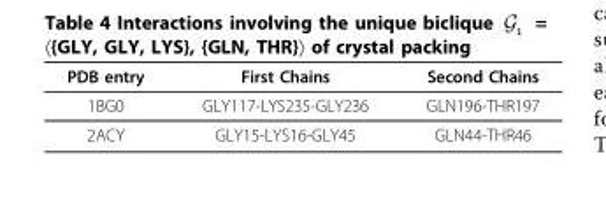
<table><thead><tr><td>PDB entry</td><td>First Chains</td><td>Second Chains</td></tr></thead><tbody><tr><td>1BG0</td><td>GLY117-LYS235-GLY236</td><td>GLN196-THR197</td></tr><tr><td>2ACY</td><td>GLY15-LYS16-GLY45</td><td>GLN44-THR46</td></tr></tbody></table>